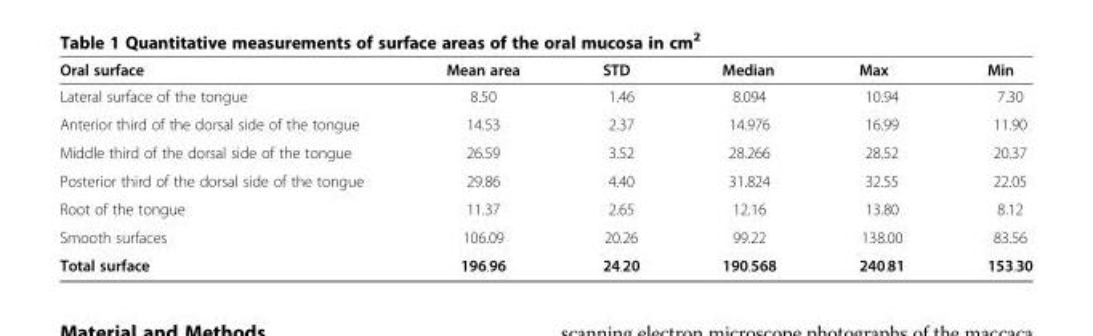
<table><thead><tr><td>Oral surface</td><td>Mean area</td><td>STD</td><td>Median</td><td>Max</td><td>Min</td></tr></thead><tbody><tr><td>Lateral surface of the tongue</td><td>8.50</td><td>1.46</td><td>8.094</td><td>10.94</td><td>7.30</td></tr><tr><td>Anterior third of the dorsal side of the tongue</td><td>14.53</td><td>2.37</td><td>14.976</td><td>16.99</td><td>11.90</td></tr><tr><td>Middle third of the dorsal side of the tongue</td><td>26.59</td><td>3.52</td><td>28.266</td><td>28.52</td><td>20.37</td></tr><tr><td>Posterior third of the dorsal side of the tongue</td><td>29.86</td><td>4.40</td><td>31.824</td><td>32.55</td><td>22.05</td></tr><tr><td>Root of the tongue</td><td>11.37</td><td>2.65</td><td>12.16</td><td>13.80</td><td>8.12</td></tr><tr><td>Smooth surfaces</td><td>106.09</td><td>20.26</td><td>99.22</td><td>138.00</td><td>83.56</td></tr><tr><td>Total surface</td><td>196.96</td><td>24.20</td><td>190.568</td><td>240.81</td><td>153.30</td></tr></tbody></table>